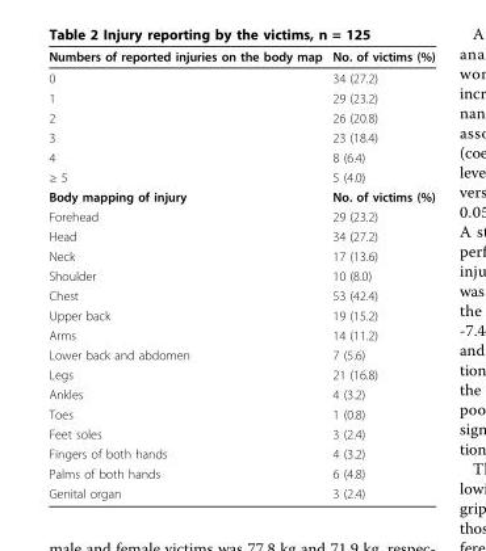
<table><thead><tr><td>Numbers of reported injuries on the body map</td><td>No. of victims (%)</td></tr></thead><tbody><tr><td>0</td><td>34 (27.2)</td></tr><tr><td>1</td><td>29 (23.2)</td></tr><tr><td>2</td><td>26 (20.8)</td></tr><tr><td>3</td><td>23 (18.4)</td></tr><tr><td>4</td><td>8 (6.4)</td></tr><tr><td>≥ 5</td><td>5 (4.0)</td></tr><tr><td>Body mapping of injury</td><td>No. of victims (%)</td></tr><tr><td>Forehead</td><td>29 (23.2)</td></tr><tr><td>Head</td><td>34 (27.2)</td></tr><tr><td>Neck</td><td>17 (13.6)</td></tr><tr><td>Shoulder</td><td>10 (8.0)</td></tr><tr><td>Chest</td><td>53 (42.4)</td></tr><tr><td>Upper back</td><td>19 (15.2)</td></tr><tr><td>Arms</td><td>14 (11.2)</td></tr><tr><td>Lower back and abdomen</td><td>7 (5.6)</td></tr><tr><td>Legs</td><td>21 (16.8)</td></tr><tr><td>Ankles</td><td>4 (3.2)</td></tr><tr><td>Toes</td><td>1 (0.8)</td></tr><tr><td>Feet soles</td><td>3 (2.4)</td></tr><tr><td>Fingers of both hands</td><td>4 (3.2)</td></tr><tr><td>Palms of both hands</td><td>6 (4.8)</td></tr><tr><td>Genital organ</td><td>3 (2.4)</td></tr></tbody></table>